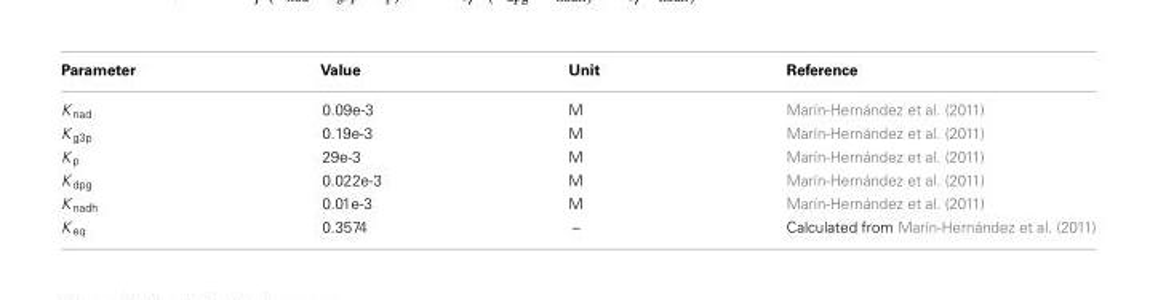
<table><thead><tr><td>Parameter</td><td>Value</td><td>Unit</td><td>Reference</td></tr></thead><tbody><tr><td>K <sub>nad</sub></td><td>0.09e-3</td><td>M</td><td>Marín-Hernández et al. (2011)</td></tr><tr><td>K <sub>g3p</sub></td><td>0.19e-3</td><td>M</td><td>Marín-Hernández et al. (2011)</td></tr><tr><td>K <sub>p</sub></td><td>29e-3</td><td>M</td><td>Marín-Hernández et al. (2011)</td></tr><tr><td>K <sub>dpg</sub></td><td>0.022e-3</td><td>M</td><td>Marín-Hernández et al. (2011)</td></tr><tr><td>K <sub>nadh</sub></td><td>0.01e-3</td><td>M</td><td>Marín-Hernández et al. (2011)</td></tr><tr><td>K <sub>eq</sub></td><td>0.3574</td><td>–</td><td>Calculated from Marín-Hernández et al. (2011)</td></tr></tbody></table>